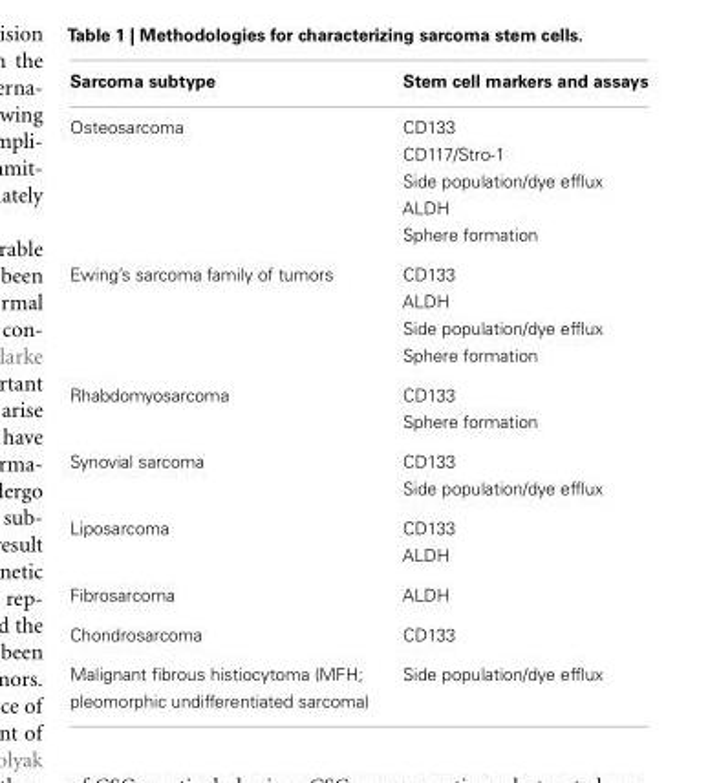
<table><thead><tr><td>Sarcoma subtype</td><td>Stem cell markers and assays</td></tr></thead><tbody><tr><td rowspan="5">Osteosarcoma</td><td>CD133</td></tr><tr><td>CD117/Stro-1</td></tr><tr><td>Side population/dye efflux</td></tr><tr><td>ALDH</td></tr><tr><td>Sphere formation</td></tr><tr><td rowspan="4">Ewing’s sarcoma family of tumors</td><td>CD133</td></tr><tr><td>ALDH</td></tr><tr><td>Side population/dye efflux</td></tr><tr><td>Sphere formation</td></tr><tr><td rowspan="2">Rhabdomyosarcoma</td><td>CD133</td></tr><tr><td>Sphere formation</td></tr><tr><td rowspan="2">Synovial sarcoma</td><td>CD133</td></tr><tr><td>Side population/dye efflux</td></tr><tr><td rowspan="2">Liposarcoma</td><td>CD133</td></tr><tr><td>ALDH</td></tr><tr><td>Fibrosarcoma</td><td>ALDH</td></tr><tr><td>Chondrosarcoma</td><td>CD133</td></tr><tr><td>Malignant fibrous histiocytoma (MFH; pleomorphic undifferentiated sarcoma)</td><td>Side population/dye efflux</td></tr></tbody></table>